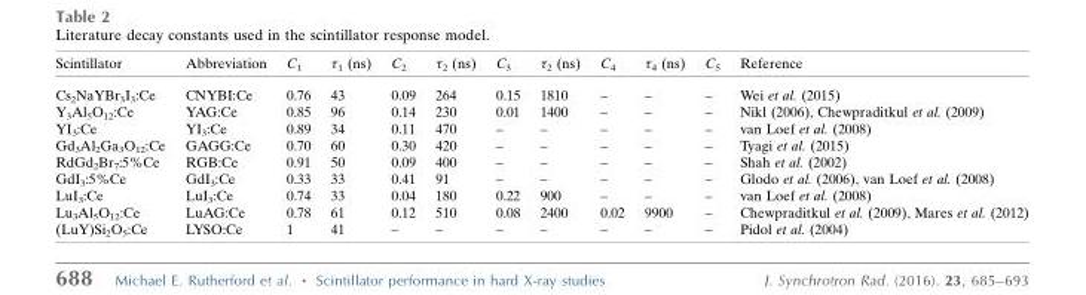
<table><thead><tr><td>Scintillator</td><td>Abbreviation</td><td>C<sub>1</sub></td><td>τ<sub>1</sub> (ns)</td><td>C<sub>2</sub></td><td>τ<sub>2</sub> (ns)</td><td>C<sub>3</sub></td><td>τ<sub>2</sub> (ns)</td><td>C<sub>4</sub></td><td>τ<sub>4</sub> (ns)</td><td>C<sub>5</sub></td><td>Reference</td></tr></thead><tbody><tr><td>Cs<sub>2</sub>NaYBr<sub>3</sub>I<sub>3</sub>:Ce</td><td>CNYBI:Ce</td><td>0.76</td><td>43</td><td>0.09</td><td>264</td><td>0.15</td><td>1810</td><td>–</td><td>–</td><td>–</td><td>Wei et al. (2015)</td></tr><tr><td>Y<sub>3</sub>Al<sub>5</sub>O<sub>12</sub>:Ce</td><td>YAG:Ce</td><td>0.85</td><td>96</td><td>0.14</td><td>230</td><td>0.01</td><td>1400</td><td>–</td><td>–</td><td>–</td><td>Nikl (2006), Chewpraditkul et al. (2009)</td></tr><tr><td>YI<sub>3</sub>:Ce</td><td>YI<sub>3</sub>:Ce</td><td>0.89</td><td>34</td><td>0.11</td><td>470</td><td>–</td><td>–</td><td>–</td><td>–</td><td>–</td><td>van Loef et al. (2008)</td></tr><tr><td>Gd<sub>3</sub>Al<sub>2</sub>Ga<sub>3</sub>O<sub>12</sub>:Ce</td><td>GAGG:Ce</td><td>0.70</td><td>60</td><td>0.30</td><td>420</td><td>–</td><td>–</td><td>–</td><td>–</td><td>–</td><td>Tyagi et al. (2015)</td></tr><tr><td>RdGd<sub>2</sub>Br<sub>7</sub>:5%Ce</td><td>RGB:Ce</td><td>0.91</td><td>50</td><td>0.09</td><td>400</td><td>–</td><td>–</td><td>–</td><td>–</td><td>–</td><td>Shah et al. (2002)</td></tr><tr><td>GdI<sub>3</sub>:5%Ce</td><td>GdI<sub>3</sub>:Ce</td><td>0.33</td><td>33</td><td>0.41</td><td>91</td><td>–</td><td>–</td><td>–</td><td>–</td><td>–</td><td>Glodo et al. (2006), van Loef et al. (2008)</td></tr><tr><td>LuI<sub>3</sub>:Ce</td><td>LuI<sub>3</sub>:Ce</td><td>0.74</td><td>33</td><td>0.04</td><td>180</td><td>0.22</td><td>900</td><td>–</td><td>–</td><td>–</td><td>van Loef et al. (2008)</td></tr><tr><td>Lu<sub>3</sub>Al<sub>5</sub>O<sub>12</sub>:Ce</td><td>LuAG:Ce</td><td>0.78</td><td>61</td><td>0.12</td><td>510</td><td>0.08</td><td>2400</td><td>0.02</td><td>9900</td><td>–</td><td>Chewpraditkul et al. (2009), Mares et al. (2012)</td></tr><tr><td>(LuY)Si<sub>2</sub>O<sub>5</sub>:Ce</td><td>LYSO:Ce</td><td>1</td><td>41</td><td>–</td><td>–</td><td>–</td><td>–</td><td>–</td><td>–</td><td>–</td><td>Pidol et al. (2004)</td></tr></tbody></table>